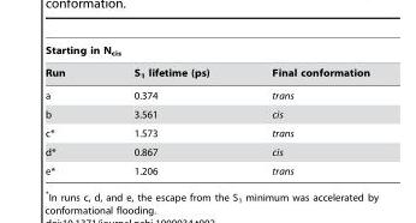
<table><thead><tr><td colspan="3">Starting in N<sub>cis</sub></td></tr><tr><td>Run</td><td>S<sub>1</sub> lifetime (ps)</td><td>Final conformation</td></tr></thead><tbody><tr><td>a</td><td>0.374</td><td>trans</td></tr><tr><td>b</td><td>3.561</td><td>cis</td></tr><tr><td>c*</td><td>1.573</td><td>trans</td></tr><tr><td>d*</td><td>0.867</td><td>cis</td></tr><tr><td>e*</td><td>1.206</td><td>trans</td></tr></tbody></table>